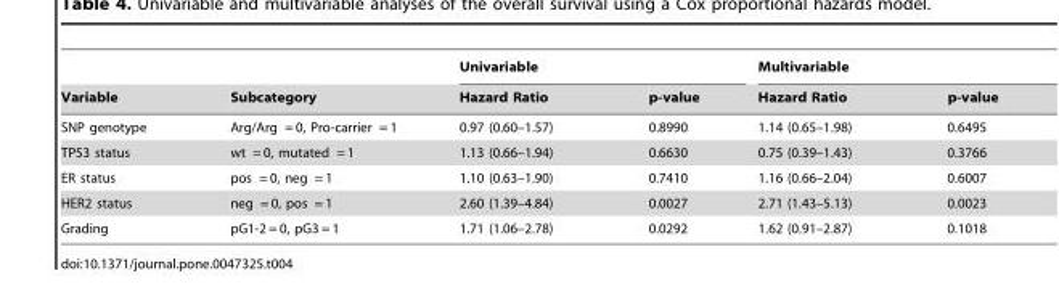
<table><thead><tr><td rowspan="2">Variable</td><td rowspan="2">Subcategory</td><td colspan="2">Univariable</td><td colspan="2">Multivariable</td></tr><tr><td>Hazard Ratio</td><td>p-value</td><td>Hazard Ratio</td><td>p-value</td></tr></thead><tbody><tr><td>SNP genotype</td><td>Arg/Arg = 0, Pro-carrier = 1</td><td>0.97 (0.60–1.57)</td><td>0.8990</td><td>1.14 (0.65–1.98)</td><td>0.6495</td></tr><tr><td>TP53 status</td><td>wt = 0, mutated = 1</td><td>1.13 (0.66–1.94)</td><td>0.6630</td><td>0.75 (0.39–1.43)</td><td>0.3766</td></tr><tr><td>ER status</td><td>pos = 0, neg = 1</td><td>1.10 (0.63–1.90)</td><td>0.7410</td><td>1.16 (0.66–2.04)</td><td>0.6007</td></tr><tr><td>HER2 status</td><td>neg = 0, pos = 1</td><td>2.60 (1.39–4.84)</td><td>0.0027</td><td>2.71 (1.43–5.13)</td><td>0.0023</td></tr><tr><td>Grading</td><td>pG1-2 = 0, pG3 = 1</td><td>1.71 (1.06–2.78)</td><td>0.0292</td><td>1.62 (0.91–2.87)</td><td>0.1018</td></tr></tbody></table>